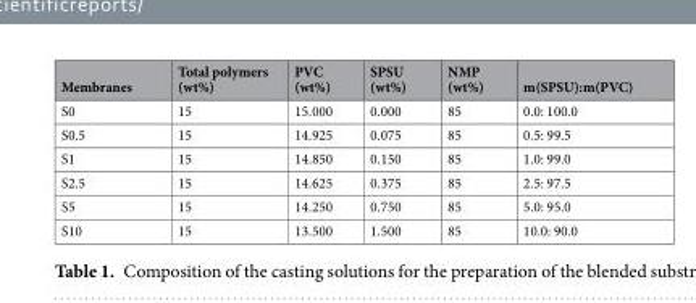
<table><thead><tr><td>Membranes</td><td>Total polymers (wt%)</td><td>PVC (wt%)</td><td>SPSU (wt%)</td><td>NMP (wt%)</td><td>m(SPSU):m(PVC)</td></tr></thead><tbody><tr><td>S0</td><td>15</td><td>15.000</td><td>0.000</td><td>85</td><td>0.0: 100.0</td></tr><tr><td>S0.5</td><td>15</td><td>14.925</td><td>0.075</td><td>85</td><td>0.5: 99.5</td></tr><tr><td>S1</td><td>15</td><td>14.850</td><td>0.150</td><td>85</td><td>1.0: 99.0</td></tr><tr><td>S2.5</td><td>15</td><td>14.625</td><td>0.375</td><td>85</td><td>2.5: 97.5</td></tr><tr><td>S5</td><td>15</td><td>14.250</td><td>0.750</td><td>85</td><td>5.0: 95.0</td></tr><tr><td>S10</td><td>15</td><td>13.500</td><td>1.500</td><td>85</td><td>10.0: 90.0</td></tr></tbody></table>